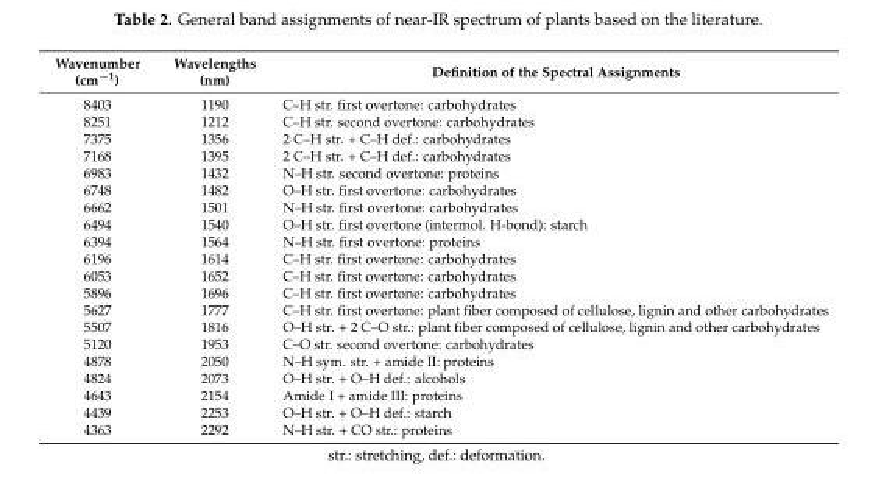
<table><thead><tr><td>Wavenumber (cm<sup>−1</sup>)</td><td>Wavelengths (nm)</td><td>Definition of the Spectral Assignments</td></tr></thead><tbody><tr><td>8403</td><td>1190</td><td>C–H str. first overtone: carbohydrates</td></tr><tr><td>8251</td><td>1212</td><td>C–H str. second overtone: carbohydrates</td></tr><tr><td>7375</td><td>1356</td><td>2 C–H str. + C–H def.: carbohydrates</td></tr><tr><td>7168</td><td>1395</td><td>2 C–H str. + C–H def.: carbohydrates</td></tr><tr><td>6983</td><td>1432</td><td>N–H str. second overtone: proteins</td></tr><tr><td>6748</td><td>1482</td><td>O–H str. first overtone: carbohydrates</td></tr><tr><td>6662</td><td>1501</td><td>N–H str. first overtone: carbohydrates</td></tr><tr><td>6494</td><td>1540</td><td>O–H str. first overtone (intermol. H-bond): starch</td></tr><tr><td>6394</td><td>1564</td><td>N–H str. first overtone: proteins</td></tr><tr><td>6196</td><td>1614</td><td>C–H str. first overtone: carbohydrates</td></tr><tr><td>6053</td><td>1652</td><td>C–H str. first overtone: carbohydrates</td></tr><tr><td>5896</td><td>1696</td><td>C–H str. first overtone: carbohydrates</td></tr><tr><td>5627</td><td>1777</td><td>C–H str. first overtone: plant fiber composed of cellulose, lignin and other carbohydrates</td></tr><tr><td>5507</td><td>1816</td><td>O–H str. + 2 C–O str.: plant fiber composed of cellulose, lignin and other carbohydrates</td></tr><tr><td>5120</td><td>1953</td><td>C–O str. second overtone: carbohydrates</td></tr><tr><td>4878</td><td>2050</td><td>N–H sym. str. + amide II: proteins</td></tr><tr><td>4824</td><td>2073</td><td>O–H str. + O–H def.: alcohols</td></tr><tr><td>4643</td><td>2154</td><td>Amide I + amide III: proteins</td></tr><tr><td>4439</td><td>2253</td><td>O–H str. + O–H def.: starch</td></tr><tr><td>4363</td><td>2292</td><td>N–H str. + CO str.: proteins</td></tr></tbody></table>